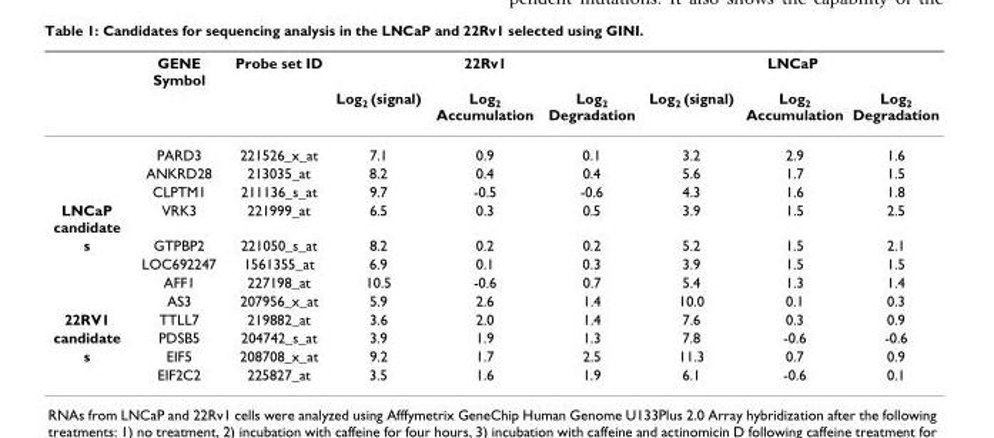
<table><thead><tr><td rowspan="2"></td><td rowspan="2">GENE Symbol</td><td rowspan="2">Probe set ID</td><td colspan="3">22Rv1</td><td colspan="3">LNCaP</td></tr><tr><td>Log<sub>2</sub> (signal)</td><td>Log<sub>2</sub> Accumulation</td><td>Log<sub>2</sub> Degradation</td><td>Log<sub>2</sub> (signal)</td><td>Log<sub>2</sub> Accumulation</td><td>Log<sub>2</sub> Degradation</td></tr></thead><tbody><tr><td></td><td>PARD3</td><td>221526_x_at</td><td>7.1</td><td>0.9</td><td>0.1</td><td>3.2</td><td>2.9</td><td>1.6</td></tr><tr><td></td><td>ANKRD28</td><td>213035_at</td><td>8.2</td><td>0.4</td><td>0.4</td><td>5.6</td><td>1.7</td><td>1.5</td></tr><tr><td></td><td>CLPTM1</td><td>211136_s_at</td><td>9.7</td><td>-0.5</td><td>-0.6</td><td>4.3</td><td>1.6</td><td>1.8</td></tr><tr><td>LNCaP candidate</td><td>VRK3</td><td>221999_at</td><td>6.5</td><td>0.3</td><td>0.5</td><td>3.9</td><td>1.5</td><td>2.5</td></tr><tr><td rowspan="4">s</td><td>GTPBP2</td><td>221050_s_at</td><td>8.2</td><td>0.2</td><td>0.2</td><td>5.2</td><td>1.5</td><td>2.1</td></tr><tr><td>LOC692247</td><td>1561355_at</td><td>6.9</td><td>0.1</td><td>0.3</td><td>3.9</td><td>1.5</td><td>1.5</td></tr><tr><td>AFF1</td><td>227198_at</td><td>10.5</td><td>-0.6</td><td>0.7</td><td>5.4</td><td>1.3</td><td>1.4</td></tr><tr><td>AS3</td><td>207956_x_at</td><td>5.9</td><td>2.6</td><td>1.4</td><td>10.0</td><td>0.1</td><td>0.3</td></tr><tr><td>22RV1</td><td>TTLL7</td><td>219882_at</td><td>3.6</td><td>2.0</td><td>1.4</td><td>7.6</td><td>0.3</td><td>0.9</td></tr><tr><td>candidate</td><td>PDSB5</td><td>204742_s_at</td><td>3.9</td><td>1.9</td><td>1.3</td><td>7.8</td><td>-0.6</td><td>-0.6</td></tr><tr><td rowspan="2">s</td><td>EIF5</td><td>208708_x_at</td><td>9.2</td><td>1.7</td><td>2.5</td><td>11.3</td><td>0.7</td><td>0.9</td></tr><tr><td>EIF2C2</td><td>225827_at</td><td>3.5</td><td>1.6</td><td>1.9</td><td>6.1</td><td>-0.6</td><td>0.1</td></tr></tbody></table>